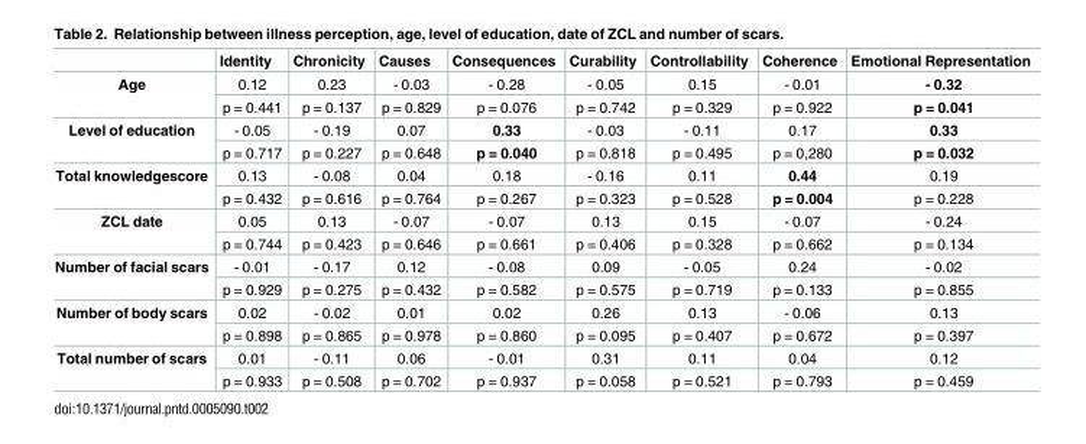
<table><thead><tr><td></td><td>Identity</td><td>Chronicity</td><td>Causes</td><td>Consequences</td><td>Curability</td><td>Controllability</td><td>Coherence</td><td>Emotional Representation</td></tr></thead><tbody><tr><td rowspan="2">Age</td><td>0.12</td><td>0.23</td><td>- 0.03</td><td>- 0.28</td><td>- 0.05</td><td>0.15</td><td>- 0.01</td><td>- 0.32</td></tr><tr><td>p = 0.441</td><td>p = 0.137</td><td>p = 0.829</td><td>p = 0.076</td><td>p = 0.742</td><td>p = 0.329</td><td>p = 0.922</td><td>p = 0.041</td></tr><tr><td rowspan="2">Level of education</td><td>- 0.05</td><td>- 0.19</td><td>0.07</td><td>0.33</td><td>- 0.03</td><td>- 0.11</td><td>0.17</td><td>0.33</td></tr><tr><td>p = 0.717</td><td>p = 0.227</td><td>p = 0.648</td><td>p = 0.040</td><td>p = 0.818</td><td>p = 0.495</td><td>p = 0,280</td><td>p = 0.032</td></tr><tr><td rowspan="2">Total knowledgescore</td><td>0.13</td><td>- 0.08</td><td>0.04</td><td>0.18</td><td>- 0.16</td><td>0.11</td><td>0.44</td><td>0.19</td></tr><tr><td>p = 0.432</td><td>p = 0.616</td><td>p = 0.764</td><td>p = 0.267</td><td>p = 0.323</td><td>p = 0.528</td><td>p = 0.004</td><td>p = 0.228</td></tr><tr><td rowspan="2">ZCL date</td><td>0.05</td><td>0.13</td><td>- 0.07</td><td>- 0.07</td><td>0.13</td><td>0.15</td><td>- 0.07</td><td>- 0.24</td></tr><tr><td>p = 0.744</td><td>p = 0.423</td><td>p = 0.646</td><td>p = 0.661</td><td>p = 0.406</td><td>p = 0.328</td><td>p = 0.662</td><td>p = 0.134</td></tr><tr><td rowspan="2">Number of facial scars</td><td>- 0.01</td><td>- 0.17</td><td>0.12</td><td>- 0.08</td><td>0.09</td><td>- 0.05</td><td>0.24</td><td>- 0.02</td></tr><tr><td>p = 0.929</td><td>p = 0.275</td><td>p = 0.432</td><td>p = 0.582</td><td>p = 0.575</td><td>p = 0.719</td><td>p = 0.133</td><td>p = 0.855</td></tr><tr><td rowspan="2">Number of body scars</td><td>0.02</td><td>- 0.02</td><td>0.01</td><td>0.02</td><td>0.26</td><td>0.13</td><td>- 0.06</td><td>0.13</td></tr><tr><td>p = 0.898</td><td>p = 0.865</td><td>p = 0.978</td><td>p = 0.860</td><td>p = 0.095</td><td>p = 0.407</td><td>p = 0.672</td><td>p = 0.397</td></tr><tr><td rowspan="2">Total number of scars</td><td>0.01</td><td>- 0.11</td><td>0.06</td><td>- 0.01</td><td>0.31</td><td>0.11</td><td>0.04</td><td>0.12</td></tr><tr><td>p = 0.933</td><td>p = 0.508</td><td>p = 0.702</td><td>p = 0.937</td><td>p = 0.058</td><td>p = 0.521</td><td>p = 0.793</td><td>p = 0.459</td></tr></tbody></table>